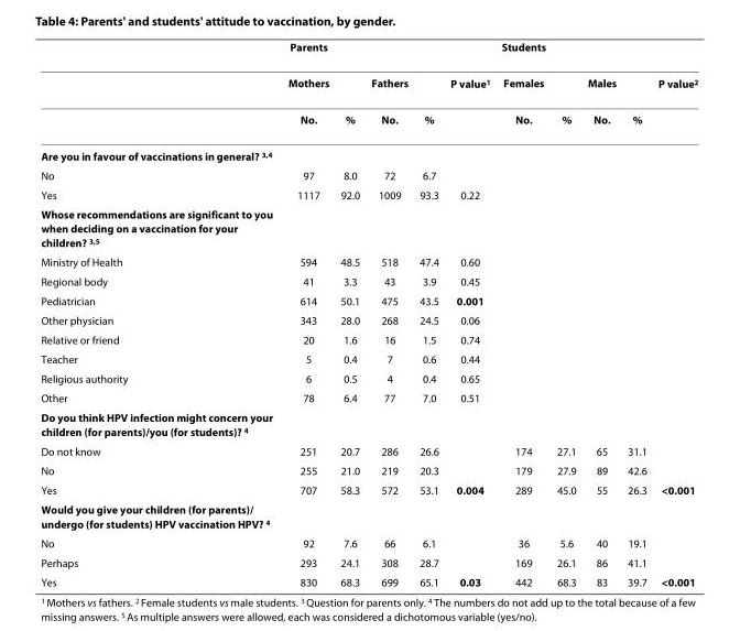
<table><thead><tr><td></td><td>Parents</td><td></td><td></td><td></td><td></td><td>Students</td><td></td><td></td><td></td><td></td></tr></thead><tbody><tr><td></td><td>Mothers</td><td></td><td>Fathers</td><td></td><td>P value<sup>1</sup></td><td>Females</td><td></td><td>Males</td><td></td><td>P value<sup>2</sup></td></tr><tr><td></td><td>No.</td><td>%</td><td>No.</td><td>%</td><td></td><td>No.</td><td>%</td><td>No.</td><td>%</td><td></td></tr><tr><td colspan="11">Are you in favour of vaccinations in general? <sup>3,4</sup></td></tr><tr><td>No</td><td>97</td><td>8.0</td><td>72</td><td>6.7</td><td></td><td></td><td></td><td></td><td></td><td></td></tr><tr><td>Yes</td><td>1117</td><td>92.0</td><td>1009</td><td>93.3</td><td>0.22</td><td></td><td></td><td></td><td></td><td></td></tr><tr><td colspan="11">Whose recommendations are significant to you when deciding on a vaccination for your children? <sup>3,5</sup></td></tr><tr><td>Ministry of Health</td><td>594</td><td>48.5</td><td>518</td><td>47.4</td><td>0.60</td><td></td><td></td><td></td><td></td><td></td></tr><tr><td>Regional body</td><td>41</td><td>3.3</td><td>43</td><td>3.9</td><td>0.45</td><td></td><td></td><td></td><td></td><td></td></tr><tr><td>Pediatrician</td><td>614</td><td>50.1</td><td>475</td><td>43.5</td><td>0.001</td><td></td><td></td><td></td><td></td><td></td></tr><tr><td>Other physician</td><td>343</td><td>28.0</td><td>268</td><td>24.5</td><td>0.06</td><td></td><td></td><td></td><td></td><td></td></tr><tr><td>Relative or friend</td><td>20</td><td>1.6</td><td>16</td><td>1.5</td><td>0.74</td><td></td><td></td><td></td><td></td><td></td></tr><tr><td>Teacher</td><td>5</td><td>0.4</td><td>7</td><td>0.6</td><td>0.44</td><td></td><td></td><td></td><td></td><td></td></tr><tr><td>Religious authority</td><td>6</td><td>0.5</td><td>4</td><td>0.4</td><td>0.65</td><td></td><td></td><td></td><td></td><td></td></tr><tr><td>Other</td><td>78</td><td>6.4</td><td>77</td><td>7.0</td><td>0.51</td><td></td><td></td><td></td><td></td><td></td></tr><tr><td colspan="11">Do you think HPV infection might concern your children (for parents)/you (for students)? <sup>4</sup></td></tr><tr><td>Do not know</td><td>251</td><td>20.7</td><td>286</td><td>26.6</td><td></td><td>174</td><td>27.1</td><td>65</td><td>31.1</td><td></td></tr><tr><td>No</td><td>255</td><td>21.0</td><td>219</td><td>20.3</td><td></td><td>179</td><td>27.9</td><td>89</td><td>42.6</td><td></td></tr><tr><td>Yes</td><td>707</td><td>58.3</td><td>572</td><td>53.1</td><td>0.004</td><td>289</td><td>45.0</td><td>55</td><td>26.3</td><td>&lt;0.001</td></tr><tr><td colspan="11">Would you give your children (for parents)/ undergo (for students) HPV vaccination HPV? <sup>4</sup></td></tr><tr><td>No</td><td>92</td><td>7.6</td><td>66</td><td>6.1</td><td></td><td>36</td><td>5.6</td><td>40</td><td>19.1</td><td></td></tr><tr><td>Perhaps</td><td>293</td><td>24.1</td><td>308</td><td>28.7</td><td></td><td>169</td><td>26.1</td><td>86</td><td>41.1</td><td></td></tr><tr><td>Yes</td><td>830</td><td>68.3</td><td>699</td><td>65.1</td><td>0.03</td><td>442</td><td>68.3</td><td>83</td><td>39.7</td><td>&lt;0.001</td></tr></tbody></table>